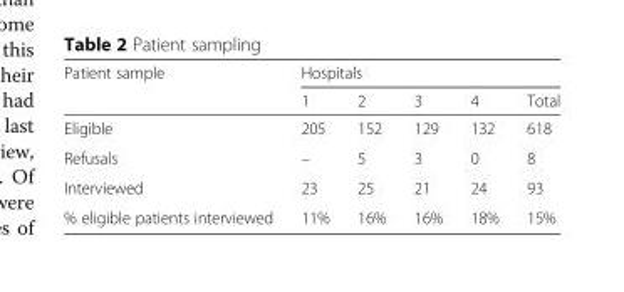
<table><thead><tr><td rowspan="2">Patient sample</td><td colspan="5">Hospitals</td></tr><tr><td>1</td><td>2</td><td>3</td><td>4</td><td>Total</td></tr></thead><tbody><tr><td>Eligible</td><td>205</td><td>152</td><td>129</td><td>132</td><td>618</td></tr><tr><td>Refusals</td><td>–</td><td>5</td><td>3</td><td>0</td><td>8</td></tr><tr><td>Interviewed</td><td>23</td><td>25</td><td>21</td><td>24</td><td>93</td></tr><tr><td>% eligible patients interviewed</td><td>11%</td><td>16%</td><td>16%</td><td>18%</td><td>15%</td></tr></tbody></table>